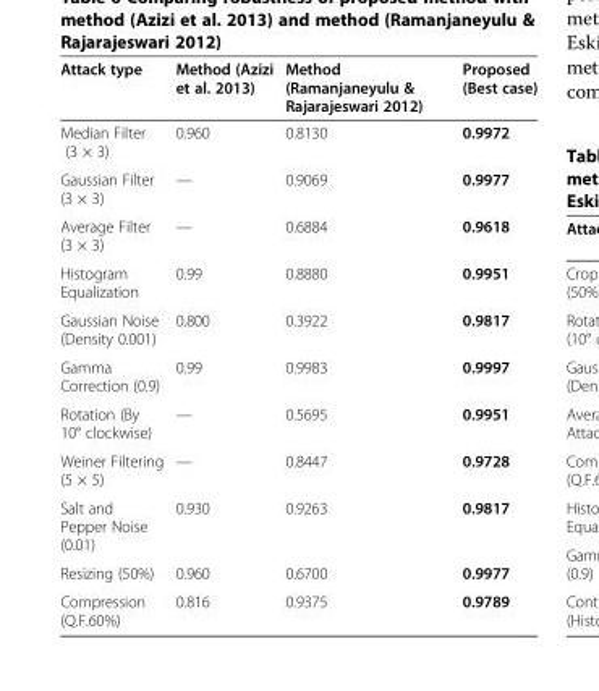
<table><thead><tr><td>Attack type</td><td>Method (Azizi et al. 2013)</td><td>Method (Ramanjaneyulu &amp; Rajarajeswari 2012)</td><td>Proposed (Best case)</td></tr></thead><tbody><tr><td>Median Filter (3 × 3)</td><td>0.960</td><td>0.8130</td><td>0.9972</td></tr><tr><td>Gaussian Filter (3 × 3)</td><td>—</td><td>0.9069</td><td>0.9977</td></tr><tr><td>Average Filter (3 × 3)</td><td>—</td><td>0.6884</td><td>0.9618</td></tr><tr><td>Histogram Equalization</td><td>0.99</td><td>0.8880</td><td>0.9951</td></tr><tr><td>Gaussian Noise (Density 0.001)</td><td>0.800</td><td>0.3922</td><td>0.9817</td></tr><tr><td>Gamma Correction (0.9)</td><td>0.99</td><td>0.9983</td><td>0.9997</td></tr><tr><td>Rotation (By 10° clockwise)</td><td>—</td><td>0.5695</td><td>0.9951</td></tr><tr><td>Weiner Filtering (5 × 5)</td><td>—</td><td>0.8447</td><td>0.9728</td></tr><tr><td>Salt and Pepper Noise (0.01)</td><td>0.930</td><td>0.9263</td><td>0.9817</td></tr><tr><td>Resizing (50%)</td><td>0.960</td><td>0.6700</td><td>0.9977</td></tr><tr><td>Compression (Q.F.60%)</td><td>0.816</td><td>0.9375</td><td>0.9789</td></tr></tbody></table>